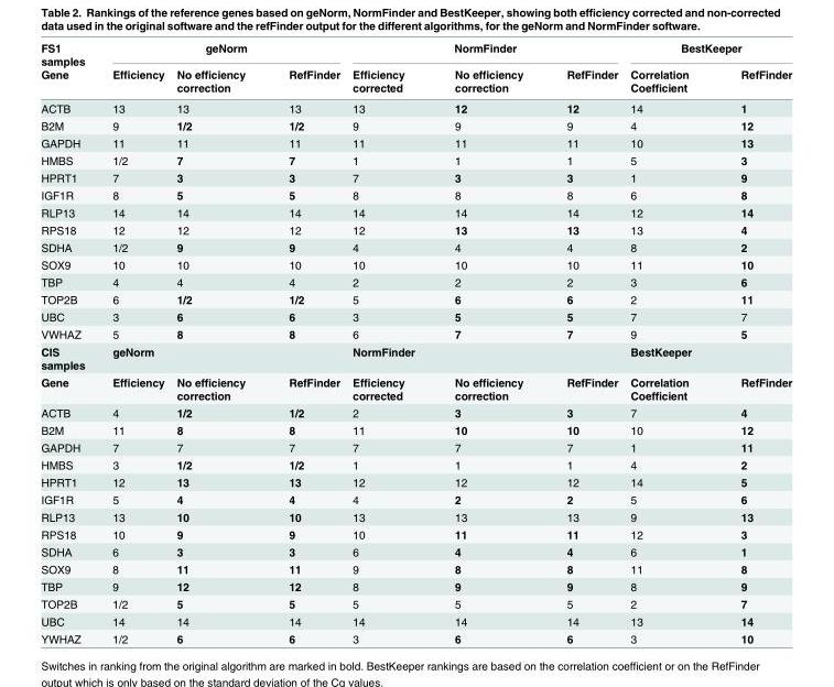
<table><thead><tr><td rowspan="2">FS1 samples Gene</td><td colspan="3">geNorm</td><td colspan="3">NormFinder</td><td colspan="2">BestKeeper</td></tr><tr><td>Efficiency</td><td>No efficiency correction</td><td>RefFinder</td><td>Efficiency corrected</td><td>No efficiency correction</td><td>RefFinder</td><td>Correlation Coefficient</td><td>RefFinder</td></tr></thead><tbody><tr><td>ACTB</td><td>13</td><td>13</td><td>13</td><td>13</td><td>12</td><td>12</td><td>14</td><td>1</td></tr><tr><td>B2M</td><td>9</td><td>1/2</td><td>1/2</td><td>9</td><td>9</td><td>9</td><td>4</td><td>12</td></tr><tr><td>GAPDH</td><td>11</td><td>11</td><td>11</td><td>11</td><td>11</td><td>11</td><td>10</td><td>13</td></tr><tr><td>HMBS</td><td>1/2</td><td>7</td><td>7</td><td>1</td><td>1</td><td>1</td><td>5</td><td>3</td></tr><tr><td>HPRT1</td><td>7</td><td>3</td><td>3</td><td>7</td><td>3</td><td>3</td><td>1</td><td>9</td></tr><tr><td>IGF1R</td><td>8</td><td>5</td><td>5</td><td>8</td><td>8</td><td>8</td><td>6</td><td>8</td></tr><tr><td>RLP13</td><td>14</td><td>14</td><td>14</td><td>14</td><td>14</td><td>14</td><td>12</td><td>14</td></tr><tr><td>RPS18</td><td>12</td><td>12</td><td>12</td><td>12</td><td>13</td><td>13</td><td>13</td><td>4</td></tr><tr><td>SDHA</td><td>1/2</td><td>9</td><td>9</td><td>4</td><td>4</td><td>4</td><td>8</td><td>2</td></tr><tr><td>SOX9</td><td>10</td><td>10</td><td>10</td><td>10</td><td>10</td><td>10</td><td>11</td><td>10</td></tr><tr><td>TBP</td><td>4</td><td>4</td><td>4</td><td>2</td><td>2</td><td>2</td><td>3</td><td>6</td></tr><tr><td>TOP2B</td><td>6</td><td>1/2</td><td>1/2</td><td>5</td><td>6</td><td>6</td><td>2</td><td>11</td></tr><tr><td>UBC</td><td>3</td><td>6</td><td>6</td><td>3</td><td>5</td><td>5</td><td>7</td><td>7</td></tr><tr><td>VWHAZ</td><td>5</td><td>8</td><td>8</td><td>6</td><td>7</td><td>7</td><td>9</td><td>5</td></tr><tr><td>CIS samples</td><td>geNorm</td><td></td><td></td><td>NormFinder</td><td></td><td></td><td>BestKeeper</td><td></td></tr><tr><td>Gene</td><td>Efficiency</td><td>No efficiency correction</td><td>RefFinder</td><td>Efficiency corrected</td><td>No efficiency correction</td><td>RefFinder</td><td>Correlation Coefficient</td><td>RefFinder</td></tr><tr><td>ACTB</td><td>4</td><td>1/2</td><td>1/2</td><td>2</td><td>3</td><td>3</td><td>7</td><td>4</td></tr><tr><td>B2M</td><td>11</td><td>8</td><td>8</td><td>11</td><td>10</td><td>10</td><td>10</td><td>12</td></tr><tr><td>GAPDH</td><td>7</td><td>7</td><td>7</td><td>7</td><td>7</td><td>7</td><td>1</td><td>11</td></tr><tr><td>HMBS</td><td>3</td><td>1/2</td><td>1/2</td><td>1</td><td>1</td><td>1</td><td>4</td><td>2</td></tr><tr><td>HPRT1</td><td>12</td><td>13</td><td>13</td><td>12</td><td>12</td><td>12</td><td>14</td><td>5</td></tr><tr><td>IGF1R</td><td>5</td><td>4</td><td>4</td><td>4</td><td>2</td><td>2</td><td>5</td><td>6</td></tr><tr><td>RLP13</td><td>13</td><td>10</td><td>10</td><td>13</td><td>13</td><td>13</td><td>9</td><td>13</td></tr><tr><td>RPS18</td><td>10</td><td>9</td><td>9</td><td>10</td><td>11</td><td>11</td><td>12</td><td>3</td></tr><tr><td>SDHA</td><td>6</td><td>3</td><td>3</td><td>6</td><td>4</td><td>4</td><td>6</td><td>1</td></tr><tr><td>SOX9</td><td>8</td><td>11</td><td>11</td><td>9</td><td>8</td><td>8</td><td>11</td><td>8</td></tr><tr><td>TBP</td><td>9</td><td>12</td><td>12</td><td>8</td><td>9</td><td>9</td><td>8</td><td>9</td></tr><tr><td>TOP2B</td><td>1/2</td><td>5</td><td>5</td><td>5</td><td>5</td><td>5</td><td>2</td><td>7</td></tr><tr><td>UBC</td><td>14</td><td>14</td><td>14</td><td>14</td><td>14</td><td>14</td><td>13</td><td>14</td></tr><tr><td>YWHAZ</td><td>1/2</td><td>6</td><td>6</td><td>3</td><td>6</td><td>6</td><td>3</td><td>10</td></tr></tbody></table>